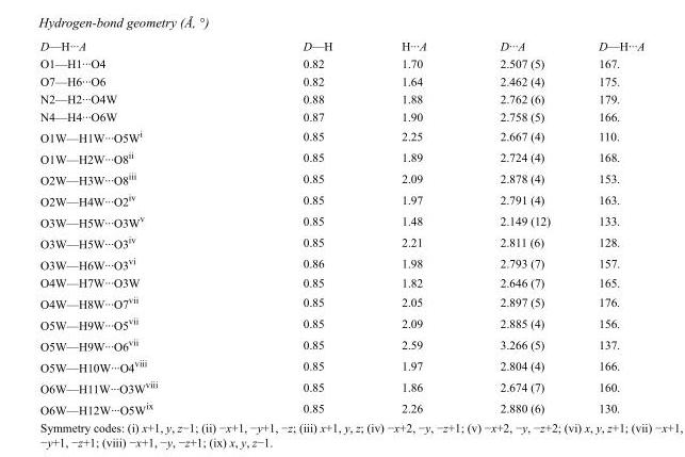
<table><tbody><tr><td>D—H···A</td><td>D—H</td><td>H···A</td><td>D···A</td><td>D—H···A</td></tr><tr><td>O1—H1···O4</td><td>0.82</td><td>1.70</td><td>2.507 (5)</td><td>167.</td></tr><tr><td>O7—H6···O6</td><td>0.82</td><td>1.64</td><td>2.462 (4)</td><td>175.</td></tr><tr><td>N2—H2···O4W</td><td>0.88</td><td>1.88</td><td>2.762 (6)</td><td>179.</td></tr><tr><td>N4—H4···O6W</td><td>0.87</td><td>1.90</td><td>2.758 (5)</td><td>166.</td></tr><tr><td>O1W—H1W···O5W<sup>i</sup></td><td>0.85</td><td>2.25</td><td>2.667 (4)</td><td>110.</td></tr><tr><td>O1W—H2W···O8<sup>ii</sup></td><td>0.85</td><td>1.89</td><td>2.724 (4)</td><td>168.</td></tr><tr><td>O2W—H3W···O8<sup>iii</sup></td><td>0.85</td><td>2.09</td><td>2.878 (4)</td><td>153.</td></tr><tr><td>O2W—H4W···O2<sup>iv</sup></td><td>0.85</td><td>1.97</td><td>2.791 (4)</td><td>163.</td></tr><tr><td>O3W—H5W···O3W<sup>v</sup></td><td>0.85</td><td>1.48</td><td>2.149 (12)</td><td>133.</td></tr><tr><td>O3W—H5W···O3<sup>iv</sup></td><td>0.85</td><td>2.21</td><td>2.811 (6)</td><td>128.</td></tr><tr><td>O3W—H6W···O3<sup>vi</sup></td><td>0.86</td><td>1.98</td><td>2.793 (7)</td><td>157.</td></tr><tr><td>O4W—H7W···O3W</td><td>0.85</td><td>1.82</td><td>2.646 (7)</td><td>165.</td></tr><tr><td>O4W—H8W···O7<sup>vii</sup></td><td>0.85</td><td>2.05</td><td>2.897 (5)</td><td>176.</td></tr><tr><td>O5W—H9W···O5<sup>vii</sup></td><td>0.85</td><td>2.09</td><td>2.885 (4)</td><td>156.</td></tr><tr><td>O5W—H9W···O6<sup>vii</sup></td><td>0.85</td><td>2.59</td><td>3.266 (5)</td><td>137.</td></tr><tr><td>O5W—H10W···O4<sup>viii</sup></td><td>0.85</td><td>1.97</td><td>2.804 (4)</td><td>166.</td></tr><tr><td>O6W—H11W···O3W<sup>viii</sup></td><td>0.85</td><td>1.86</td><td>2.674 (7)</td><td>160.</td></tr><tr><td>O6W—H12W···O5W<sup>ix</sup></td><td>0.85</td><td>2.26</td><td>2.880 (6)</td><td>130.</td></tr></tbody></table>